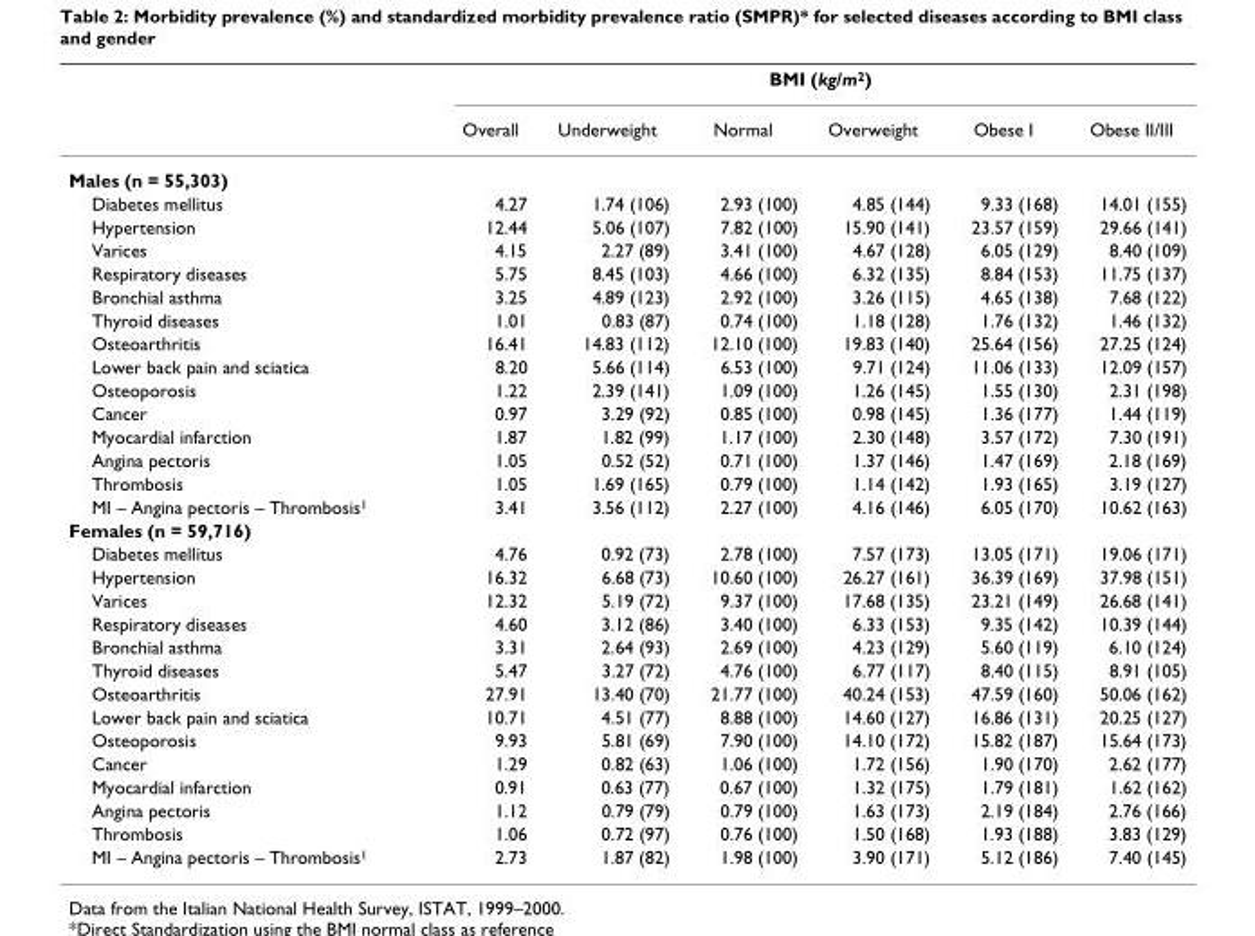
<table><thead><tr><td rowspan="2"></td><td colspan="6">BMI (kg/m<sup>2</sup>)</td></tr><tr><td>Overall</td><td>Underweight</td><td>Normal</td><td>Overweight</td><td>Obese I</td><td>Obese II/III</td></tr></thead><tbody><tr><td colspan="7">Males (n = 55,303)</td></tr><tr><td>Diabetes mellitus</td><td>4.27</td><td>1.74 (106)</td><td>2.93 (100)</td><td>4.85 (144)</td><td>9.33 (168)</td><td>14.01 (155)</td></tr><tr><td>Hypertension</td><td>12.44</td><td>5.06 (107)</td><td>7.82 (100)</td><td>15.90 (141)</td><td>23.57 (159)</td><td>29.66 (141)</td></tr><tr><td>Varices</td><td>4.15</td><td>2.27 (89)</td><td>3.41 (100)</td><td>4.67 (128)</td><td>6.05 (129)</td><td>8.40 (109)</td></tr><tr><td>Respiratory diseases</td><td>5.75</td><td>8.45 (103)</td><td>4.66 (100)</td><td>6.32 (135)</td><td>8.84 (153)</td><td>11.75 (137)</td></tr><tr><td>Bronchial asthma</td><td>3.25</td><td>4.89 (123)</td><td>2.92 (100)</td><td>3.26 (115)</td><td>4.65 (138)</td><td>7.68 (122)</td></tr><tr><td>Thyroid diseases</td><td>1.01</td><td>0.83 (87)</td><td>0.74 (100)</td><td>1.18 (128)</td><td>1.76 (132)</td><td>1.46 (132)</td></tr><tr><td>Osteoarthritis</td><td>16.41</td><td>14.83 (112)</td><td>12.10 (100)</td><td>19.83 (140)</td><td>25.64 (156)</td><td>27.25 (124)</td></tr><tr><td>Lower back pain and sciatica</td><td>8.20</td><td>5.66 (114)</td><td>6.53 (100)</td><td>9.71 (124)</td><td>11.06 (133)</td><td>12.09 (157)</td></tr><tr><td>Osteoporosis</td><td>1.22</td><td>2.39 (141)</td><td>1.09 (100)</td><td>1.26 (145)</td><td>1.55 (130)</td><td>2.31 (198)</td></tr><tr><td>Cancer</td><td>0.97</td><td>3.29 (92)</td><td>0.85 (100)</td><td>0.98 (145)</td><td>1.36 (177)</td><td>1.44 (119)</td></tr><tr><td>Myocardial infarction</td><td>1.87</td><td>1.82 (99)</td><td>1.17 (100)</td><td>2.30 (148)</td><td>3.57 (172)</td><td>7.30 (191)</td></tr><tr><td>Angina pectoris</td><td>1.05</td><td>0.52 (52)</td><td>0.71 (100)</td><td>1.37 (146)</td><td>1.47 (169)</td><td>2.18 (169)</td></tr><tr><td>Thrombosis</td><td>1.05</td><td>1.69 (165)</td><td>0.79 (100)</td><td>1.14 (142)</td><td>1.93 (165)</td><td>3.19 (127)</td></tr><tr><td>MI – Angina pectoris – Thrombosis<sup>1</sup></td><td>3.41</td><td>3.56 (112)</td><td>2.27 (100)</td><td>4.16 (146)</td><td>6.05 (170)</td><td>10.62 (163)</td></tr><tr><td colspan="7">Females (n = 59,716)</td></tr><tr><td>Diabetes mellitus</td><td>4.76</td><td>0.92 (73)</td><td>2.78 (100)</td><td>7.57 (173)</td><td>13.05 (171)</td><td>19.06 (171)</td></tr><tr><td>Hypertension</td><td>16.32</td><td>6.68 (73)</td><td>10.60 (100)</td><td>26.27 (161)</td><td>36.39 (169)</td><td>37.98 (151)</td></tr><tr><td>Varices</td><td>12.32</td><td>5.19 (72)</td><td>9.37 (100)</td><td>17.68 (135)</td><td>23.21 (149)</td><td>26.68 (141)</td></tr><tr><td>Respiratory diseases</td><td>4.60</td><td>3.12 (86)</td><td>3.40 (100)</td><td>6.33 (153)</td><td>9.35 (142)</td><td>10.39 (144)</td></tr><tr><td>Bronchial asthma</td><td>3.31</td><td>2.64 (93)</td><td>2.69 (100)</td><td>4.23 (129)</td><td>5.60 (119)</td><td>6.10 (124)</td></tr><tr><td>Thyroid diseases</td><td>5.47</td><td>3.27 (72)</td><td>4.76 (100)</td><td>6.77 (117)</td><td>8.40 (115)</td><td>8.91 (105)</td></tr><tr><td>Osteoarthritis</td><td>27.91</td><td>13.40 (70)</td><td>21.77 (100)</td><td>40.24 (153)</td><td>47.59 (160)</td><td>50.06 (162)</td></tr><tr><td>Lower back pain and sciatica</td><td>10.71</td><td>4.51 (77)</td><td>8.88 (100)</td><td>14.60 (127)</td><td>16.86 (131)</td><td>20.25 (127)</td></tr><tr><td>Osteoporosis</td><td>9.93</td><td>5.81 (69)</td><td>7.90 (100)</td><td>14.10 (172)</td><td>15.82 (187)</td><td>15.64 (173)</td></tr><tr><td>Cancer</td><td>1.29</td><td>0.82 (63)</td><td>1.06 (100)</td><td>1.72 (156)</td><td>1.90 (170)</td><td>2.62 (177)</td></tr><tr><td>Myocardial infarction</td><td>0.91</td><td>0.63 (77)</td><td>0.67 (100)</td><td>1.32 (175)</td><td>1.79 (181)</td><td>1.62 (162)</td></tr><tr><td>Angina pectoris</td><td>1.12</td><td>0.79 (79)</td><td>0.79 (100)</td><td>1.63 (173)</td><td>2.19 (184)</td><td>2.76 (166)</td></tr><tr><td>Thrombosis</td><td>1.06</td><td>0.72 (97)</td><td>0.76 (100)</td><td>1.50 (168)</td><td>1.93 (188)</td><td>3.83 (129)</td></tr><tr><td>MI – Angina pectoris – Thrombosis<sup>1</sup></td><td>2.73</td><td>1.87 (82)</td><td>1.98 (100)</td><td>3.90 (171)</td><td>5.12 (186)</td><td>7.40 (145)</td></tr></tbody></table>